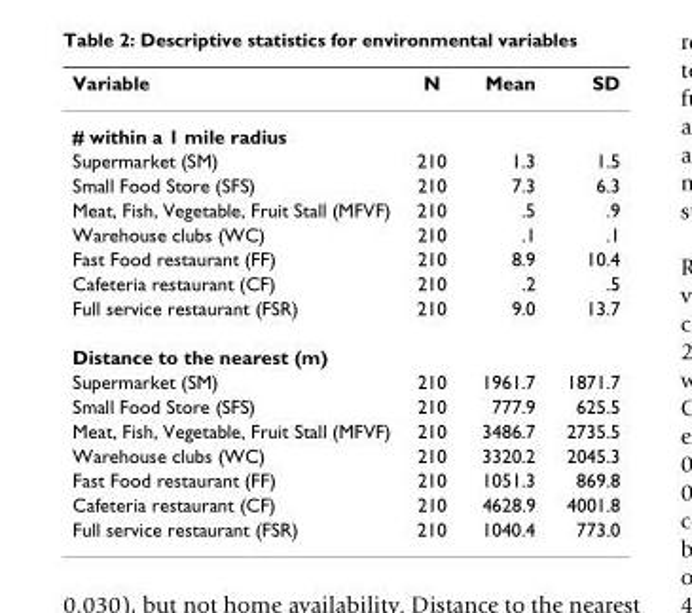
<table><thead><tr><td>Variable</td><td>N</td><td>Mean</td><td>SD</td></tr></thead><tbody><tr><td colspan="4"># within a 1 mile radius</td></tr><tr><td>Supermarket (SM)</td><td>210</td><td>1.3</td><td>1.5</td></tr><tr><td>Small Food Store (SFS)</td><td>210</td><td>7.3</td><td>6.3</td></tr><tr><td>Meat, Fish, Vegetable, Fruit Stall (MFVF)</td><td>210</td><td>.5</td><td>.9</td></tr><tr><td>Warehouse clubs (WC)</td><td>210</td><td>.1</td><td>.1</td></tr><tr><td>Fast Food restaurant (FF)</td><td>210</td><td>8.9</td><td>10.4</td></tr><tr><td>Cafeteria restaurant (CF)</td><td>210</td><td>.2</td><td>.5</td></tr><tr><td>Full service restaurant (FSR)</td><td>210</td><td>9.0</td><td>13.7</td></tr><tr><td colspan="4">Distance to the nearest (m)</td></tr><tr><td>Supermarket (SM)</td><td>210</td><td>1961.7</td><td>1871.7</td></tr><tr><td>Small Food Store (SFS)</td><td>210</td><td>777.9</td><td>625.5</td></tr><tr><td>Meat, Fish, Vegetable, Fruit Stall (MFVF)</td><td>210</td><td>3486.7</td><td>2735.5</td></tr><tr><td>Warehouse clubs (WC)</td><td>210</td><td>3320.2</td><td>2045.3</td></tr><tr><td>Fast Food restaurant (FF)</td><td>210</td><td>1051.3</td><td>869.8</td></tr><tr><td>Cafeteria restaurant (CF)</td><td>210</td><td>4628.9</td><td>4001.8</td></tr><tr><td>Full service restaurant (FSR)</td><td>210</td><td>1040.4</td><td>773.0</td></tr></tbody></table>